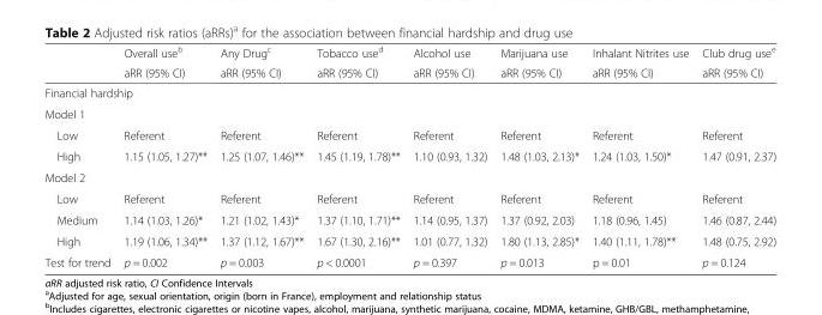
<table><thead><tr><td rowspan="2"></td><td rowspan="2">Overall use<sup>b</sup> aRR (95% CI)</td><td rowspan="2">Any Drug<sup>c</sup> aRR (95% CI)</td><td rowspan="2">Tobacco use<sup>d</sup> aRR (95% CI)</td><td rowspan="2">Alcohol use aRR (95% CI)</td><td rowspan="2">Marijuana use aRR (95% CI)</td><td rowspan="2">Inhalant Nitrites use aRR (95% CI)</td><td rowspan="2">Club drug use<sup>e</sup> aRR (95% CI)</td></tr><tr></tr></thead><tbody><tr><td colspan="8">Financial hardship</td></tr><tr><td colspan="8">Model 1</td></tr><tr><td>Low</td><td>Referent</td><td>Referent</td><td>Referent</td><td>Referent</td><td>Referent</td><td>Referent</td><td>Referent</td></tr><tr><td>High</td><td>1.15 (1.05, 1.27)**</td><td>1.25 (1.07, 1.46)**</td><td>1.45 (1.19, 1.78)**</td><td>1.10 (0.93, 1.32)</td><td>1.48 (1.03, 2.13)*</td><td>1.24 (1.03, 1.50)*</td><td>1.47 (0.91, 2.37)</td></tr><tr><td colspan="8">Model 2</td></tr><tr><td>Low</td><td>Referent</td><td>Referent</td><td>Referent</td><td>Referent</td><td>Referent</td><td>Referent</td><td>Referent</td></tr><tr><td>Medium</td><td>1.14 (1.03, 1.26)*</td><td>1.21 (1.02, 1.43)*</td><td>1.37 (1.10, 1.71)**</td><td>1.14 (0.95, 1.37)</td><td>1.37 (0.92, 2.03)</td><td>1.18 (0.96, 1.45)</td><td>1.46 (0.87, 2.44)</td></tr><tr><td>High</td><td>1.19 (1.06, 1.34)**</td><td>1.37 (1.12, 1.67)**</td><td>1.67 (1.30, 2.16)**</td><td>1.01 (0.77, 1.32)</td><td>1.80 (1.13, 2.85)*</td><td>1.40 (1.11, 1.78)**</td><td>1.48 (0.75, 2.92)</td></tr><tr><td>Test for trend</td><td>p = 0.002</td><td>p = 0.003</td><td>p &lt; 0.0001</td><td>p = 0.397</td><td>p = 0.013</td><td>p = 0.01</td><td>p = 0.124</td></tr></tbody></table>